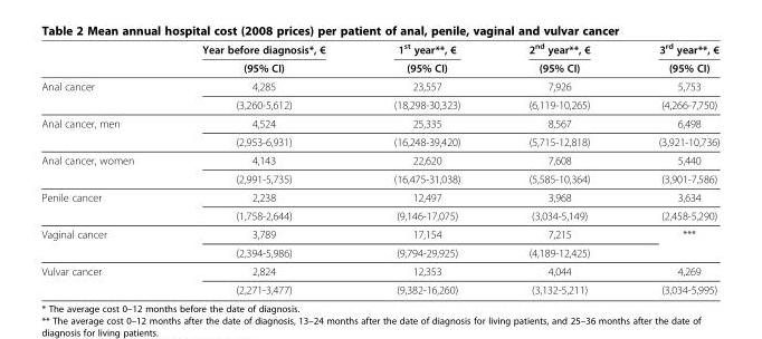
<table><thead><tr><td rowspan="2"></td><td rowspan="2">Year before diagnosis*, € (95% CI)</td><td rowspan="2">1<sup>st</sup> year**, € (95% CI)</td><td rowspan="2">2<sup>nd</sup> year**, € (95% CI)</td><td rowspan="2">3<sup>rd</sup> year**, € (95% CI)</td></tr><tr></tr></thead><tbody><tr><td rowspan="2">Anal cancer</td><td>4,285</td><td>23,557</td><td>7,926</td><td>5,753</td></tr><tr><td>(3,260-5,612)</td><td>(18,298-30,323)</td><td>(6,119-10,265)</td><td>(4,266-7,750)</td></tr><tr><td rowspan="2">Anal cancer, men</td><td>4,524</td><td>25,335</td><td>8,567</td><td>6,498</td></tr><tr><td>(2,953-6,931)</td><td>(16,248-39,420)</td><td>(5,715-12,818)</td><td>(3,921-10,736)</td></tr><tr><td rowspan="2">Anal cancer, women</td><td>4,143</td><td>22,620</td><td>7,608</td><td>5,440</td></tr><tr><td>(2,991-5,735)</td><td>(16,475-31,038)</td><td>(5,585-10,364)</td><td>(3,901-7,586)</td></tr><tr><td rowspan="2">Penile cancer</td><td>2,238</td><td>12,497</td><td>3,968</td><td>3,634</td></tr><tr><td>(1,758-2,644)</td><td>(9,146-17,075)</td><td>(3,034-5,149)</td><td>(2,458-5,290)</td></tr><tr><td rowspan="2">Vaginal cancer</td><td>3,789</td><td>17,154</td><td>7,215</td><td rowspan="2">***</td></tr><tr><td>(2,394-5,986)</td><td>(9,794-29,925)</td><td>(4,189-12,425)</td></tr><tr><td rowspan="2">Vulvar cancer</td><td>2,824</td><td>12,353</td><td>4,044</td><td>4,269</td></tr><tr><td>(2,271-3,477)</td><td>(9,382-16,260)</td><td>(3,132-5,211)</td><td>(3,034-5,995)</td></tr></tbody></table>